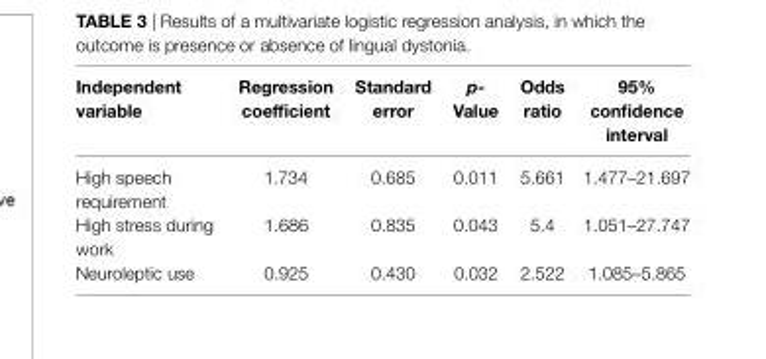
<table><thead><tr><td>independent variable</td><td>regression coefficient</td><td>standard error</td><td>p- Value</td><td>Odds ratio</td><td>95% confidence interval</td></tr></thead><tbody><tr><td>High speech requirement</td><td>1.734</td><td>0.685</td><td>0.011</td><td>5.661</td><td>1.477–21.697</td></tr><tr><td>High stress during work</td><td>1.686</td><td>0.835</td><td>0.043</td><td>5.4</td><td>1.051–27.747</td></tr><tr><td>Neuroleptic use</td><td>0.925</td><td>0.430</td><td>0.032</td><td>2.522</td><td>1.085–5.865</td></tr></tbody></table>